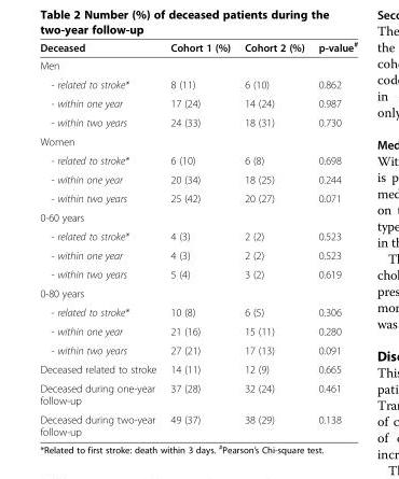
<table><thead><tr><td>Deceased</td><td>Cohort 1 (%)</td><td>Cohort 2 (%)</td><td>p-value<sup>#</sup></td></tr></thead><tbody><tr><td colspan="4">Men</td></tr><tr><td>- related to stroke*</td><td>8 (11)</td><td>6 (10)</td><td>0.862</td></tr><tr><td>- within one year</td><td>17 (24)</td><td>14 (24)</td><td>0.987</td></tr><tr><td>- within two years</td><td>24 (33)</td><td>18 (31)</td><td>0.730</td></tr><tr><td colspan="4">Women</td></tr><tr><td>- related to stroke*</td><td>6 (10)</td><td>6 (8)</td><td>0.698</td></tr><tr><td>- within one year</td><td>20 (34)</td><td>18 (25)</td><td>0.244</td></tr><tr><td>- within two years</td><td>25 (42)</td><td>20 (27)</td><td>0.071</td></tr><tr><td colspan="4">0-60 years</td></tr><tr><td>- related to stroke*</td><td>4 (3)</td><td>2 (2)</td><td>0.523</td></tr><tr><td>- within one year</td><td>4 (3)</td><td>2 (2)</td><td>0.523</td></tr><tr><td>- within two years</td><td>5 (4)</td><td>3 (2)</td><td>0.619</td></tr><tr><td colspan="4">0-80 years</td></tr><tr><td>- related to stroke*</td><td>10 (8)</td><td>6 (5)</td><td>0.306</td></tr><tr><td>- within one year</td><td>21 (16)</td><td>15 (11)</td><td>0.280</td></tr><tr><td>- within two years</td><td>27 (21)</td><td>17 (13)</td><td>0.091</td></tr><tr><td>Deceased related to stroke</td><td>14 (11)</td><td>12 (9)</td><td>0.665</td></tr><tr><td>Deceased during one-year follow-up</td><td>37 (28)</td><td>32 (24)</td><td>0.461</td></tr><tr><td>Deceased during two-year follow-up</td><td>49 (37)</td><td>38 (29)</td><td>0.138</td></tr></tbody></table>